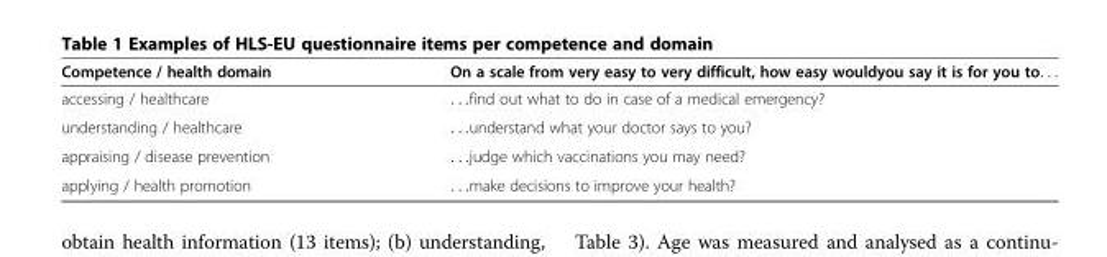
<table><thead><tr><td>Competence / health domain</td><td>On a scale from very easy to very difficult, how easy wouldyou say it is for you to…</td></tr></thead><tbody><tr><td>accessing / healthcare</td><td>. . .find out what to do in case of a medical emergency?</td></tr><tr><td>understanding / healthcare</td><td>. . .understand what your doctor says to you?</td></tr><tr><td>appraising / disease prevention</td><td>. . .judge which vaccinations you may need?</td></tr><tr><td>applying / health promotion</td><td>. . .make decisions to improve your health?</td></tr></tbody></table>